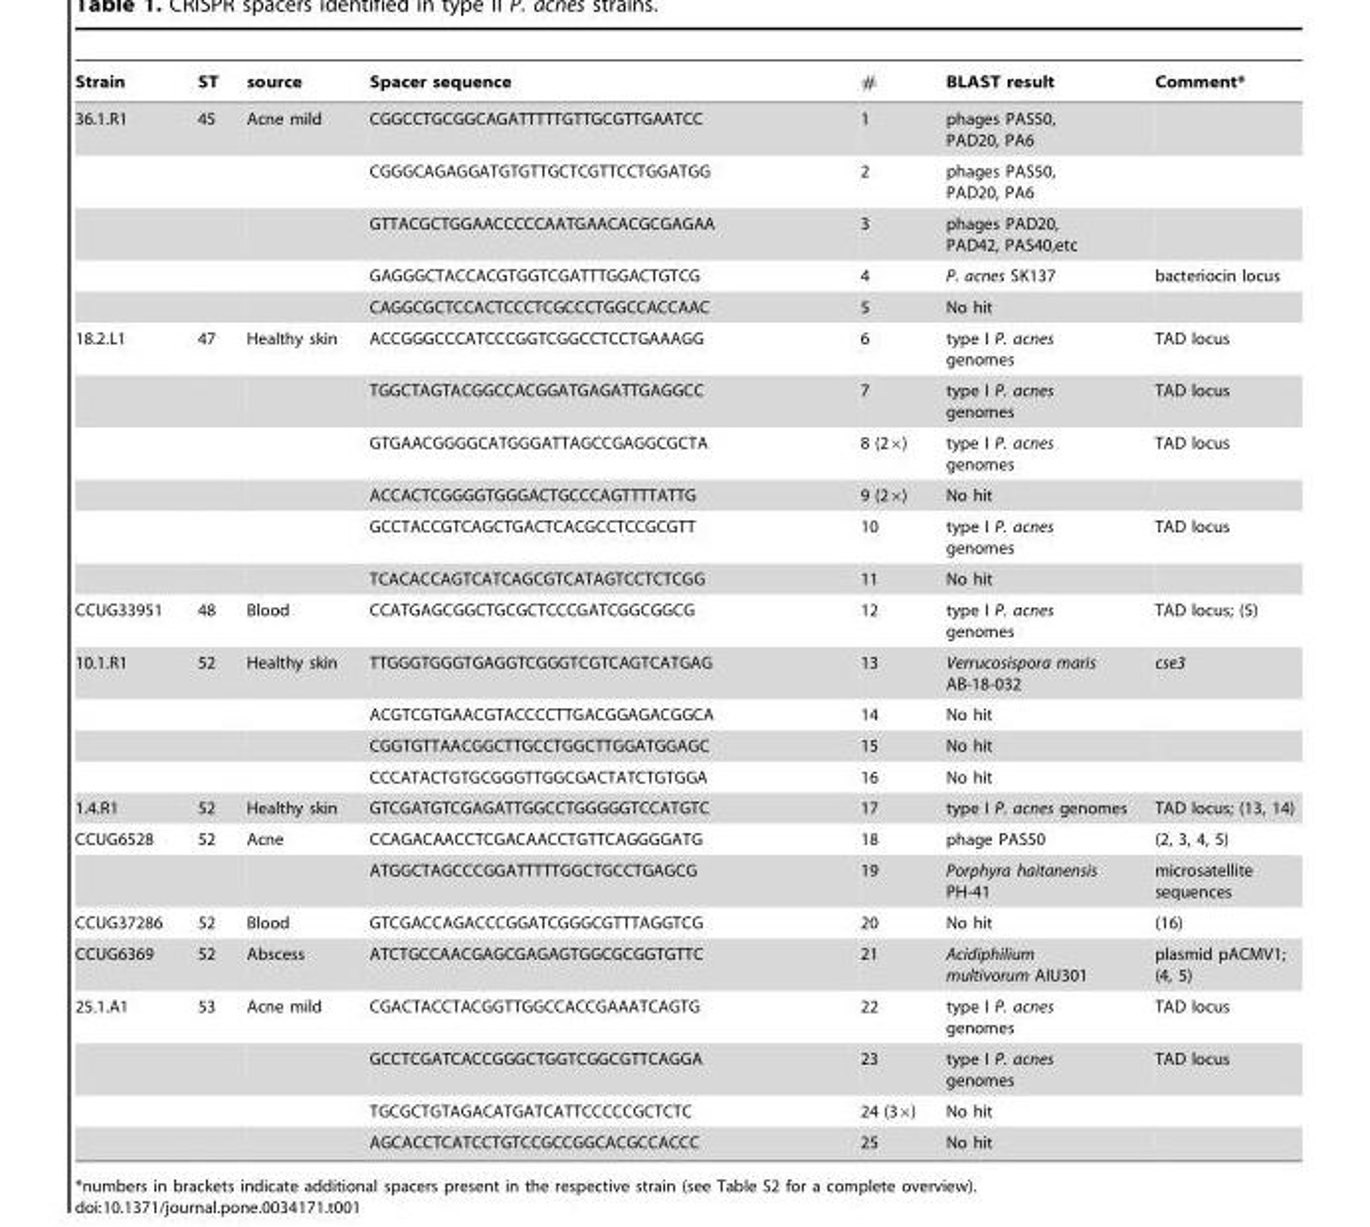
<table><thead><tr><td>Strain</td><td>ST</td><td>source</td><td>Spacer sequence</td><td>#</td><td>BLAST result</td><td>Comment*</td></tr></thead><tbody><tr><td rowspan="5">36.1.R1</td><td>45</td><td>Acne mild</td><td>CGGCCTGCGGCAGATTTTTGTTGCGTTGAATCC</td><td>1</td><td>phages PAS50, PAD20, PA6</td><td></td></tr><tr><td></td><td></td><td>CGGGCAGAGGATGTGTTGCTCGTTCCTGGATGG</td><td>2</td><td>phages PAS50, PAD20, PA6</td><td></td></tr><tr><td></td><td></td><td>GTTACGCTGGAACCCCCAATGAACACGCGAGAA</td><td>3</td><td>phages PAD20, PAD42, PAS40,etc</td><td></td></tr><tr><td></td><td></td><td>GAGGGCTACCACGTGGTCGATTTGGACTGTCG</td><td>4</td><td>P. acnes SK137</td><td>bacteriocin locus</td></tr><tr><td></td><td></td><td>CAGGCGCTCCACTCCCTCGCCCTGGCCACCAAC</td><td>5</td><td>No hit</td><td></td></tr><tr><td rowspan="6">18.2.L1</td><td>47</td><td>Healthy skin</td><td>ACCGGGCCCATCCCGGTCGGCCTCCTGAAAGG</td><td>6</td><td>type I P. acnes genomes</td><td>TAD locus</td></tr><tr><td></td><td></td><td>TGGCTAGTACGGCCACGGATGAGATTGAGGCC</td><td>7</td><td>type I P. acnes genomes</td><td>TAD locus</td></tr><tr><td></td><td></td><td>GTGAACGGGGCATGGGATTAGCCGAGGCGCTA</td><td>8 (2×)</td><td>type I P. acnes genomes</td><td>TAD locus</td></tr><tr><td></td><td></td><td>ACCACTCGGGGTGGGACTGCCCAGTTTTATTG</td><td>9 (2×)</td><td>No hit</td><td></td></tr><tr><td></td><td></td><td>GCCTACCGTCAGCTGACTCACGCCTCCGCGTT</td><td>10</td><td>type I P. acnes genomes</td><td>TAD locus</td></tr><tr><td></td><td></td><td>TCACACCAGTCATCAGCGTCATAGTCCTCTCGG</td><td>11</td><td>No hit</td><td></td></tr><tr><td>CCUG33951</td><td>48</td><td>Blood</td><td>CCATGAGCGGCTGCGCTCCCGATCGGCGGCG</td><td>12</td><td>type I P. acnes genomes</td><td>TAD locus; (5)</td></tr><tr><td rowspan="4">10.1.R1</td><td>52</td><td>Healthy skin</td><td>TTGGGTGGGTGAGGTCGGGTCGTCAGTCATGAG</td><td>13</td><td>Verrucosispora maris AB-18-032</td><td>cse3</td></tr><tr><td></td><td></td><td>ACGTCGTGAACGTACCCCTTGACGGAGACGGCA</td><td>14</td><td>No hit</td><td></td></tr><tr><td></td><td></td><td>CGGTGTTAACGGCTTGCCTGGCTTGGATGGAGC</td><td>15</td><td>No hit</td><td></td></tr><tr><td></td><td></td><td>CCCATACTGTGCGGGTTGGCGACTATCTGTGGA</td><td>16</td><td>No hit</td><td></td></tr><tr><td>1.4.R1</td><td>52</td><td>Healthy skin</td><td>GTCGATGTCGAGATTGGCCTGGGGGTCCATGTC</td><td>17</td><td>type I P. acnes genomes</td><td>TAD locus; (13, 14)</td></tr><tr><td rowspan="2">CCUG6528</td><td>52</td><td>Acne</td><td>CCAGACAACCTCGACAACCTGTTCAGGGGATG</td><td>18</td><td>phage PAS50</td><td>(2, 3, 4, 5)</td></tr><tr><td></td><td></td><td>ATGGCTAGCCCGGATTTTTGGCTGCCTGAGCG</td><td>19</td><td>Porphyra haitanensis PH-41</td><td>microsatellite sequences</td></tr><tr><td>CCUG37286</td><td>52</td><td>Blood</td><td>GTCGACCAGACCCGGATCGGGCGTTTAGGTCG</td><td>20</td><td>No hit</td><td>(16)</td></tr><tr><td>CCUG6369</td><td>52</td><td>Abscess</td><td>ATCTGCCAACGAGCGAGAGTGGCGCGGTGTTC</td><td>21</td><td>Acidiphilium multivorum AIU301</td><td>plasmid pACMV1; (4, 5)</td></tr><tr><td rowspan="4">25.1.A1</td><td>53</td><td>Acne mild</td><td>CGACTACCTACGGTTGGCCACCGAAATCAGTG</td><td>22</td><td>type I P. acnes genomes</td><td>TAD locus</td></tr><tr><td></td><td></td><td>GCCTCGATCACCGGGCTGGTCGGCGTTCAGGA</td><td>23</td><td>type I P. acnes genomes</td><td>TAD locus</td></tr><tr><td></td><td></td><td>TGCGCTGTAGACATGATCATTCCCCCGCTCTC</td><td>24 (3×)</td><td>No hit</td><td></td></tr><tr><td></td><td></td><td>AGCACCTCATCCTGTCCGCCGGCACGCCACCC</td><td>25</td><td>No hit</td><td></td></tr></tbody></table>